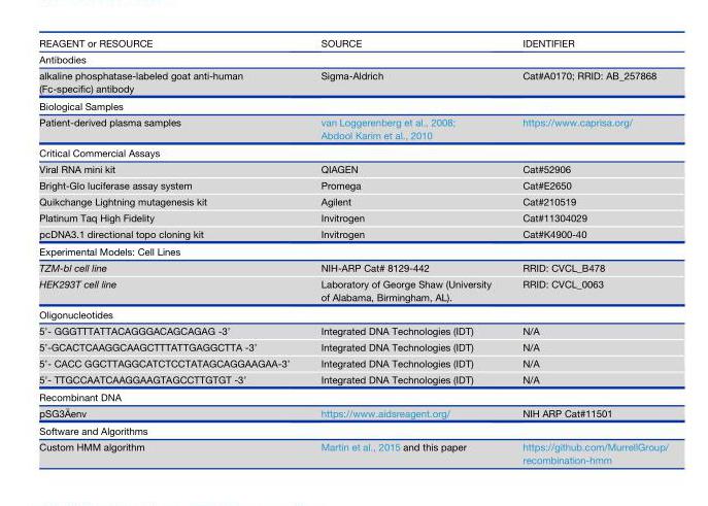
<table><thead><tr><td>REAGENT or RESOURCE</td><td>SOURCE</td><td>IDENTIFIER</td></tr></thead><tbody><tr><td colspan="3">Antibodies</td></tr><tr><td>alkaline phosphatase-labeled goat anti-human (Fc-specific) antibody</td><td>Sigma-Aldrich</td><td>Cat#A0170; RRID: AB_257868</td></tr><tr><td colspan="3">Biological Samples</td></tr><tr><td>Patient-derived plasma samples</td><td>van Loggerenberg et al., 2008; Abdool Karim et al., 2010</td><td>https://www.caprisa.org/</td></tr><tr><td colspan="3">Critical Commercial Assays</td></tr><tr><td>Viral RNA mini kit</td><td>QIAGEN</td><td>Cat#52906</td></tr><tr><td>Bright-Glo luciferase assay system</td><td>Promega</td><td>Cat#E2650</td></tr><tr><td>Quikchange Lightning mutagenesis kit</td><td>Agilent</td><td>Cat#210519</td></tr><tr><td>Platinum Taq High Fidelity</td><td>Invitrogen</td><td>Cat#11304029</td></tr><tr><td>pcDNA3.1 directional topo cloning kit</td><td>Invitrogen</td><td>Cat#K4900-40</td></tr><tr><td colspan="3">Experimental Models: Cell Lines</td></tr><tr><td>TZM-bl cell line</td><td>NIH-ARP Cat# 8129-442</td><td>RRID: CVCL_B478</td></tr><tr><td>HEK293T cell line</td><td>Laboratory of George Shaw (University of Alabama, Birmingham, AL).</td><td>RRID: CVCL_0063</td></tr><tr><td colspan="3">Oligonucleotides</td></tr><tr><td>5’- GGGTTTATTACAGGGACAGCAGAG -3’</td><td>Integrated DNA Technologies (IDT)</td><td>N/A</td></tr><tr><td>5’-GCACTCAAGGCAAGCTTTATTGAGGCTTA -3’</td><td>Integrated DNA Technologies (IDT)</td><td>N/A</td></tr><tr><td>5’- CACC GGCTTAGGCATCTCCTATAGCAGGAAGAA-3’</td><td>Integrated DNA Technologies (IDT)</td><td>N/A</td></tr><tr><td>5’- TTGCCAATCAAGGAAGTAGCCTTGTGT -3’</td><td>Integrated DNA Technologies (IDT)</td><td>N/A</td></tr><tr><td colspan="3">Recombinant DNA</td></tr><tr><td>pSG3A¨ env</td><td>https://www.aidsreagent.org/</td><td>NIH ARP Cat#11501</td></tr><tr><td colspan="3">Software and Algorithms</td></tr><tr><td>Custom HMM algorithm</td><td>Martin et al., 2015 and this paper</td><td>https://github.com/MurrellGroup/ recombination-hmm</td></tr></tbody></table>